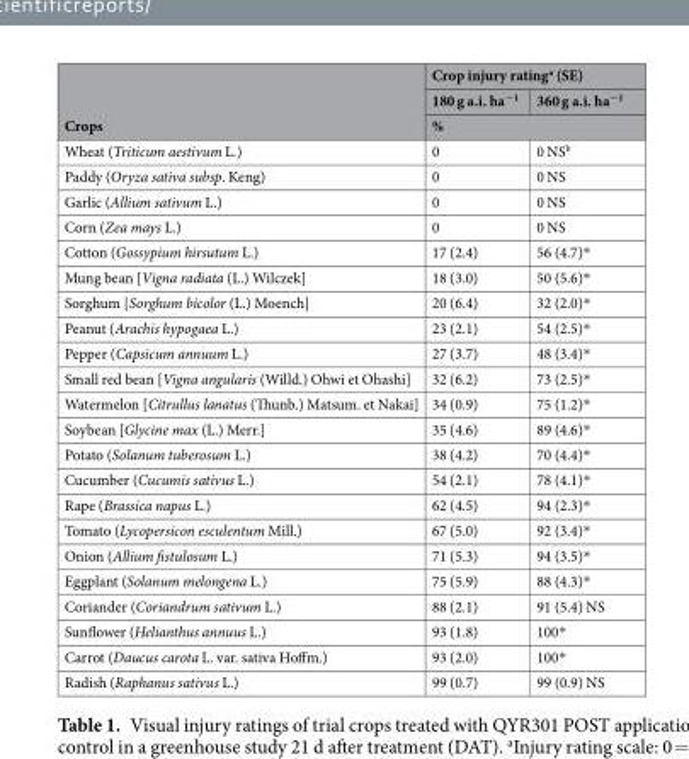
<table><thead><tr><td rowspan="3">Crops</td><td colspan="2">Crop injury rating<sup>a</sup> (SE)</td></tr><tr><td>180 g a.i. ha<sup>−1</sup></td><td>360 g a.i. ha<sup>−1</sup></td></tr><tr><td colspan="2">%</td></tr></thead><tbody><tr><td>Wheat (Triticum aestivum L.)</td><td>0</td><td>0 NS<sup>b</sup></td></tr><tr><td>Paddy (Oryza sativa subsp. Keng)</td><td>0</td><td>0 NS</td></tr><tr><td>Garlic (Allium sativum L.)</td><td>0</td><td>0 NS</td></tr><tr><td>Corn (Zea mays L.)</td><td>0</td><td>0 NS</td></tr><tr><td>Cotton (Gossypium hirsutum L.)</td><td>17 (2.4)</td><td>56 (4.7)*</td></tr><tr><td>Mung bean [Vigna radiata (L.) Wilczek]</td><td>18 (3.0)</td><td>50 (5.6)*</td></tr><tr><td>Sorghum [Sorghum bicolor (L.) Moench]</td><td>20 (6.4)</td><td>32 (2.0)*</td></tr><tr><td>Peanut (Arachis hypogaea L.)</td><td>23 (2.1)</td><td>54 (2.5)*</td></tr><tr><td>Pepper (Capsicum annuum L.)</td><td>27 (3.7)</td><td>48 (3.4)*</td></tr><tr><td>Small red bean [Vigna angularis (Willd.) Ohwi et Ohashi]</td><td>32 (6.2)</td><td>73 (2.5)*</td></tr><tr><td>Watermelon [Citrullus lanatus (Thunb.) Matsum. et Nakai]</td><td>34 (0.9)</td><td>75 (1.2)*</td></tr><tr><td>Soybean [Glycine max (L.) Merr.]</td><td>35 (4.6)</td><td>89 (4.6)*</td></tr><tr><td>Potato (Solanum tuberosum L.)</td><td>38 (4.2)</td><td>70 (4.4)*</td></tr><tr><td>Cucumber (Cucumis sativus L.)</td><td>54 (2.1)</td><td>78 (4.1)*</td></tr><tr><td>Rape (Brassica napus L.)</td><td>62 (4.5)</td><td>94 (2.3)*</td></tr><tr><td>Tomato (Lycopersicon esculentum Mill.)</td><td>67 (5.0)</td><td>92 (3.4)*</td></tr><tr><td>Onion (Allium fistulosum L.)</td><td>71 (5.3)</td><td>94 (3.5)*</td></tr><tr><td>Eggplant (Solanum melongena L.)</td><td>75 (5.9)</td><td>88 (4.3)*</td></tr><tr><td>Coriander (Coriandrum sativum L.)</td><td>88 (2.1)</td><td>91 (5.4) NS</td></tr><tr><td>Sunflower (Helianthus annuus L.)</td><td>93 (1.8)</td><td>100*</td></tr><tr><td>Carrot (Daucus carota L. var. sativa Hoffm.)</td><td>93 (2.0)</td><td>100*</td></tr><tr><td>Radish (Raphanus sativus L.)</td><td>99 (0.7)</td><td>99 (0.9) NS</td></tr></tbody></table>